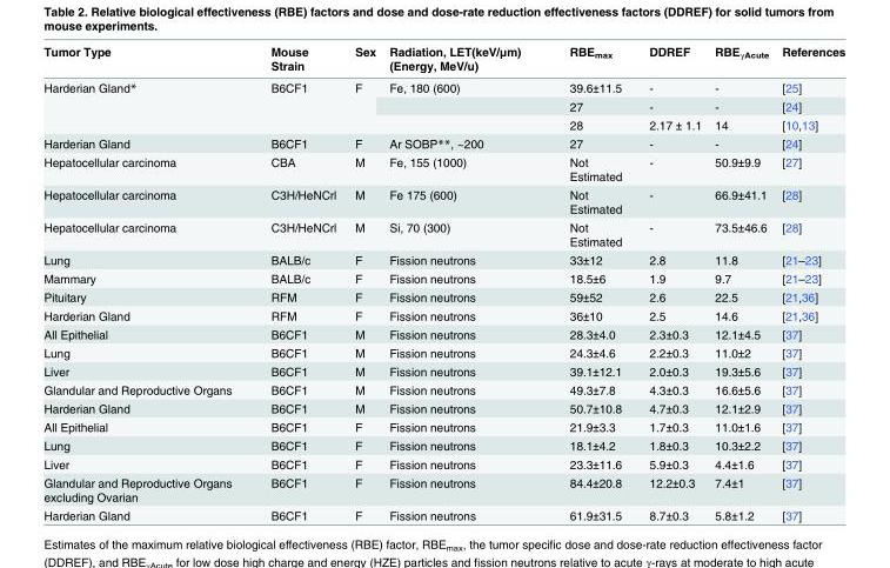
<table><thead><tr><td>Tumor Type</td><td>Mouse Strain</td><td>Sex</td><td>Radiation, LET(keV/μm) (Energy, MeV/u)</td><td>RBE<sub>max</sub></td><td>DDREF</td><td>RBE<sub>γAcute</sub></td><td>References</td></tr></thead><tbody><tr><td rowspan="3">Harderian Gland*</td><td rowspan="3">B6CF1</td><td rowspan="3">F</td><td>Fe, 180 (600)</td><td>39.6±11.5</td><td>-</td><td>-</td><td>[25]</td></tr><tr><td></td><td>27</td><td>-</td><td>-</td><td>[24]</td></tr><tr><td></td><td>28</td><td>2.17 ± 1.1</td><td>14</td><td>[10,13]</td></tr><tr><td>Harderian Gland</td><td>B6CF1</td><td>F</td><td>Ar SOBP**, ~200</td><td>27</td><td>-</td><td>-</td><td>[24]</td></tr><tr><td>Hepatocellular carcinoma</td><td>CBA</td><td>M</td><td>Fe, 155 (1000)</td><td>Not Estimated</td><td>-</td><td>50.9±9.9</td><td>[27]</td></tr><tr><td>Hepatocellular carcinoma</td><td>C3H/HeNCrl</td><td>M</td><td>Fe 175 (600)</td><td>Not Estimated</td><td>-</td><td>66.9±41.1</td><td>[28]</td></tr><tr><td>Hepatocellular carcinoma</td><td>C3H/HeNCrl</td><td>M</td><td>Si, 70 (300)</td><td>Not Estimated</td><td>-</td><td>73.5±46.6</td><td>[28]</td></tr><tr><td>Lung</td><td>BALB/c</td><td>F</td><td>Fission neutrons</td><td>33±12</td><td>2.8</td><td>11.8</td><td>[21–23]</td></tr><tr><td>Mammary</td><td>BALB/c</td><td>F</td><td>Fission neutrons</td><td>18.5±6</td><td>1.9</td><td>9.7</td><td>[21–23]</td></tr><tr><td>Pituitary</td><td>RFM</td><td>F</td><td>Fission neutrons</td><td>59±52</td><td>2.6</td><td>22.5</td><td>[21,36]</td></tr><tr><td>Harderian Gland</td><td>RFM</td><td>F</td><td>Fission neutrons</td><td>36±10</td><td>2.5</td><td>14.6</td><td>[21,36]</td></tr><tr><td>All Epithelial</td><td>B6CF1</td><td>M</td><td>Fission neutrons</td><td>28.3±4.0</td><td>2.3±0.3</td><td>12.1±4.5</td><td>[37]</td></tr><tr><td>Lung</td><td>B6CF1</td><td>M</td><td>Fission neutrons</td><td>24.3±4.6</td><td>2.2±0.3</td><td>11.0±2</td><td>[37]</td></tr><tr><td>Liver</td><td>B6CF1</td><td>M</td><td>Fission neutrons</td><td>39.1±12.1</td><td>2.0±0.3</td><td>19.3±5.6</td><td>[37]</td></tr><tr><td>Glandular and Reproductive Organs</td><td>B6CF1</td><td>M</td><td>Fission neutrons</td><td>49.3±7.8</td><td>4.3±0.3</td><td>16.6±5.6</td><td>[37]</td></tr><tr><td>Harderian Gland</td><td>B6CF1</td><td>M</td><td>Fission neutrons</td><td>50.7±10.8</td><td>4.7±0.3</td><td>12.1±2.9</td><td>[37]</td></tr><tr><td>All Epithelial</td><td>B6CF1</td><td>F</td><td>Fission neutrons</td><td>21.9±3.3</td><td>1.7±0.3</td><td>11.0±1.6</td><td>[37]</td></tr><tr><td>Lung</td><td>B6CF1</td><td>F</td><td>Fission neutrons</td><td>18.1±4.2</td><td>1.8±0.3</td><td>10.3±2.2</td><td>[37]</td></tr><tr><td>Liver</td><td>B6CF1</td><td>F</td><td>Fission neutrons</td><td>23.3±11.6</td><td>5.9±0.3</td><td>4.4±1.6</td><td>[37]</td></tr><tr><td>Glandular and Reproductive Organs excluding Ovarian</td><td>B6CF1</td><td>F</td><td>Fission neutrons</td><td>84.4±20.8</td><td>12.2±0.3</td><td>7.4±1</td><td>[37]</td></tr><tr><td>Harderian Gland</td><td>B6CF1</td><td>F</td><td>Fission neutrons</td><td>61.9±31.5</td><td>8.7±0.3</td><td>5.8±1.2</td><td>[37]</td></tr></tbody></table>